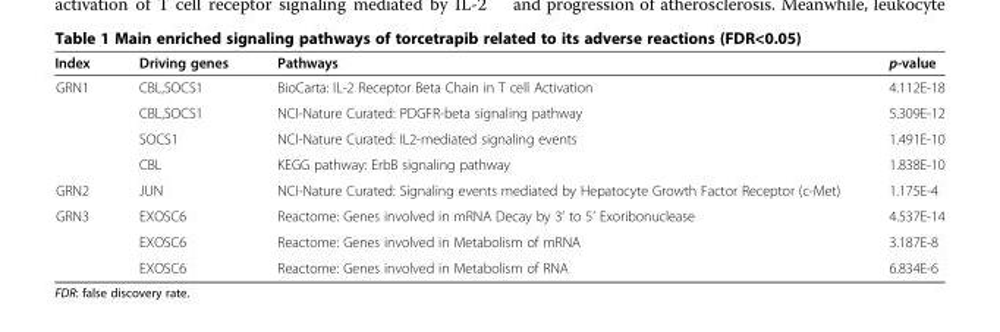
<table><thead><tr><td>Index</td><td>Driving genes</td><td>Pathways</td><td>p-value</td></tr></thead><tbody><tr><td rowspan="4">GRN1</td><td>CBL,SOCS1</td><td>BioCarta: IL-2 Receptor Beta Chain in T cell Activation</td><td>4.112E-18</td></tr><tr><td>CBL,SOCS1</td><td>NCI-Nature Curated: PDGFR-beta signaling pathway</td><td>5.309E-12</td></tr><tr><td>SOCS1</td><td>NCI-Nature Curated: IL2-mediated signaling events</td><td>1.491E-10</td></tr><tr><td>CBL</td><td>KEGG pathway: ErbB signaling pathway</td><td>1.838E-10</td></tr><tr><td>GRN2</td><td>JUN</td><td>NCI-Nature Curated: Signaling events mediated by Hepatocyte Growth Factor Receptor (c-Met)</td><td>1.175E-4</td></tr><tr><td rowspan="3">GRN3</td><td>EXOSC6</td><td>Reactome: Genes involved in mRNA Decay by 3’ to 5’ Exoribonuclease</td><td>4.537E-14</td></tr><tr><td>EXOSC6</td><td>Reactome: Genes involved in Metabolism of mRNA</td><td>3.187E-8</td></tr><tr><td>EXOSC6</td><td>Reactome: Genes involved in Metabolism of RNA</td><td>6.834E-6</td></tr></tbody></table>